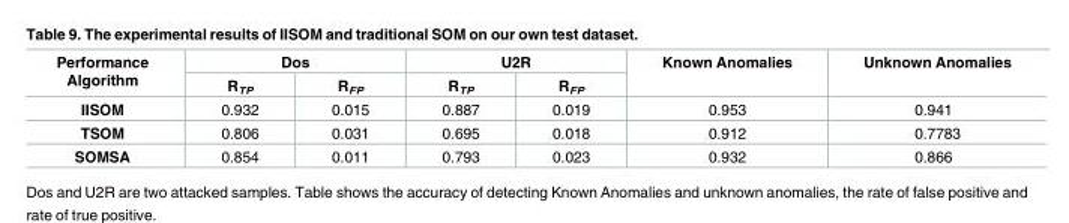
<table><thead><tr><td rowspan="2">Performance Algorithm</td><td colspan="2">Dos</td><td colspan="2">U2R</td><td rowspan="2">Known Anomalies</td><td rowspan="2">Unknown Anomalies</td></tr><tr><td>R<sub>TP</sub></td><td>R<sub>FP</sub></td><td>R<sub>TP</sub></td><td>R<sub>FP</sub></td></tr></thead><tbody><tr><td>IISOM</td><td>0.932</td><td>0.015</td><td>0.887</td><td>0.019</td><td>0.953</td><td>0.941</td></tr><tr><td>TSOM</td><td>0.806</td><td>0.031</td><td>0.695</td><td>0.018</td><td>0.912</td><td>0.7783</td></tr><tr><td>SOMSA</td><td>0.854</td><td>0.011</td><td>0.793</td><td>0.023</td><td>0.932</td><td>0.866</td></tr></tbody></table>